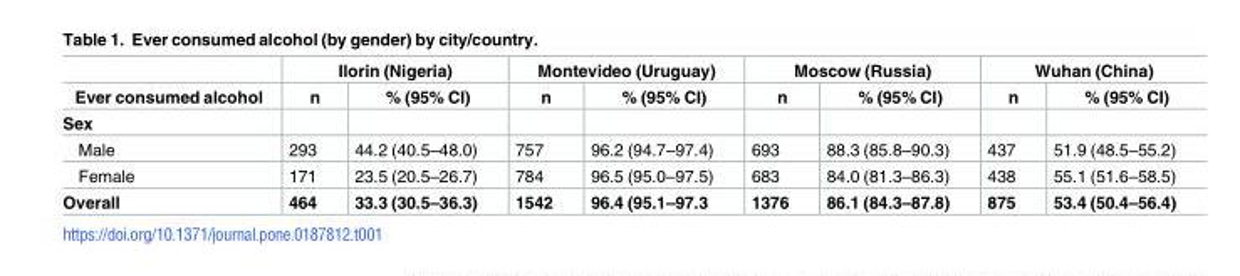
<table><thead><tr><td rowspan="2">Ever consumed alcohol</td><td colspan="2">Ilorin (Nigeria)</td><td colspan="2">Montevideo (Uruguay)</td><td colspan="2">Moscow (Russia)</td><td colspan="2">Wuhan (China)</td></tr><tr><td>n</td><td>% (95% CI)</td><td>n</td><td>% (95% CI)</td><td>n</td><td>% (95% CI)</td><td>n</td><td>% (95% CI)</td></tr></thead><tbody><tr><td colspan="9">Sex</td></tr><tr><td>Male</td><td>293</td><td>44.2 (40.5–48.0)</td><td>757</td><td>96.2 (94.7–97.4)</td><td>693</td><td>88.3 (85.8–90.3)</td><td>437</td><td>51.9 (48.5–55.2)</td></tr><tr><td>Female</td><td>171</td><td>23.5 (20.5–26.7)</td><td>784</td><td>96.5 (95.0–97.5)</td><td>683</td><td>84.0 (81.3–86.3)</td><td>438</td><td>55.1 (51.6–58.5)</td></tr><tr><td>Overall</td><td>464</td><td>33.3 (30.5–36.3)</td><td>1542</td><td>96.4 (95.1–97.3</td><td>1376</td><td>86.1 (84.3–87.8)</td><td>875</td><td>53.4 (50.4–56.4)</td></tr></tbody></table>